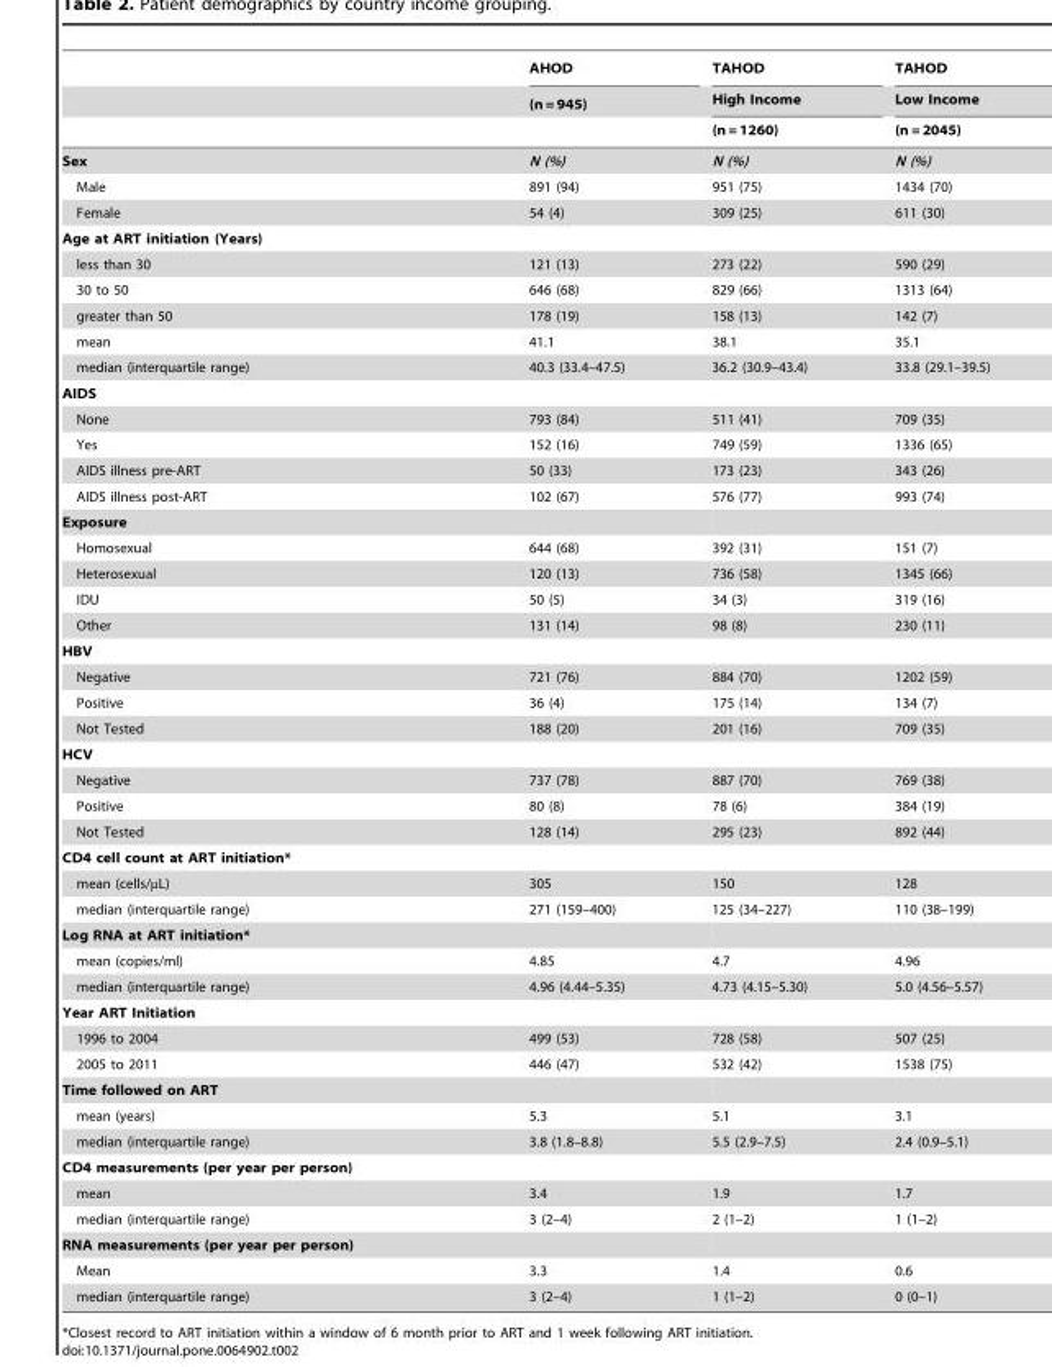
<table><thead><tr><td rowspan="3"></td><td rowspan="3">AHOD (n = 945)</td><td rowspan="3">TAHOD High Income (n = 1260)</td><td rowspan="3">TAHOD Low Income (n = 2045)</td></tr><tr></tr><tr></tr></thead><tbody><tr><td>Sex</td><td>N (%)</td><td>N (%)</td><td>N (%)</td></tr><tr><td>Male</td><td>891 (94)</td><td>951 (75)</td><td>1434 (70)</td></tr><tr><td>Female</td><td>54 (4)</td><td>309 (25)</td><td>611 (30)</td></tr><tr><td colspan="4">Age at ART initiation (Years)</td></tr><tr><td>less than 30</td><td>121 (13)</td><td>273 (22)</td><td>590 (29)</td></tr><tr><td>30 to 50</td><td>646 (68)</td><td>829 (66)</td><td>1313 (64)</td></tr><tr><td>greater than 50</td><td>178 (19)</td><td>158 (13)</td><td>142 (7)</td></tr><tr><td>mean</td><td>41.1</td><td>38.1</td><td>35.1</td></tr><tr><td>median (interquartile range)</td><td>40.3 (33.4–47.5)</td><td>36.2 (30.9–43.4)</td><td>33.8 (29.1–39.5)</td></tr><tr><td colspan="4">AIDS</td></tr><tr><td>None</td><td>793 (84)</td><td>511 (41)</td><td>709 (35)</td></tr><tr><td>Yes</td><td>152 (16)</td><td>749 (59)</td><td>1336 (65)</td></tr><tr><td>AIDS illness pre-ART</td><td>50 (33)</td><td>173 (23)</td><td>343 (26)</td></tr><tr><td>AIDS illness post-ART</td><td>102 (67)</td><td>576 (77)</td><td>993 (74)</td></tr><tr><td colspan="4">Exposure</td></tr><tr><td>Homosexual</td><td>644 (68)</td><td>392 (31)</td><td>151 (7)</td></tr><tr><td>Heterosexual</td><td>120 (13)</td><td>736 (58)</td><td>1345 (66)</td></tr><tr><td>IDU</td><td>50 (5)</td><td>34 (3)</td><td>319 (16)</td></tr><tr><td>Other</td><td>131 (14)</td><td>98 (8)</td><td>230 (11)</td></tr><tr><td colspan="4">HBV</td></tr><tr><td>Negative</td><td>721 (76)</td><td>884 (70)</td><td>1202 (59)</td></tr><tr><td>Positive</td><td>36 (4)</td><td>175 (14)</td><td>134 (7)</td></tr><tr><td>Not Tested</td><td>188 (20)</td><td>201 (16)</td><td>709 (35)</td></tr><tr><td colspan="4">HCV</td></tr><tr><td>Negative</td><td>737 (78)</td><td>887 (70)</td><td>769 (38)</td></tr><tr><td>Positive</td><td>80 (8)</td><td>78 (6)</td><td>384 (19)</td></tr><tr><td>Not Tested</td><td>128 (14)</td><td>295 (23)</td><td>892 (44)</td></tr><tr><td colspan="4">CD4 cell count at ART initiation*</td></tr><tr><td>mean (cells/µL)</td><td>305</td><td>150</td><td>128</td></tr><tr><td>median (interquartile range)</td><td>271 (159–400)</td><td>125 (34–227)</td><td>110 (38–199)</td></tr><tr><td colspan="4">Log RNA at ART initiation*</td></tr><tr><td>mean (copies/ml)</td><td>4.85</td><td>4.7</td><td>4.96</td></tr><tr><td>median (interquartile range)</td><td>4.96 (4.44–5.35)</td><td>4.73 (4.15–5.30)</td><td>5.0 (4.56–5.57)</td></tr><tr><td colspan="4">Year ART Initiation</td></tr><tr><td>1996 to 2004</td><td>499 (53)</td><td>728 (58)</td><td>507 (25)</td></tr><tr><td>2005 to 2011</td><td>446 (47)</td><td>532 (42)</td><td>1538 (75)</td></tr><tr><td colspan="4">Time followed on ART</td></tr><tr><td>mean (years)</td><td>5.3</td><td>5.1</td><td>3.1</td></tr><tr><td>median (interquartile range)</td><td>3.8 (1.8–8.8)</td><td>5.5 (2.9–7.5)</td><td>2.4 (0.9–5.1)</td></tr><tr><td colspan="4">CD4 measurements (per year per person)</td></tr><tr><td>mean</td><td>3.4</td><td>1.9</td><td>1.7</td></tr><tr><td>median (interquartile range)</td><td>3 (2–4)</td><td>2 (1–2)</td><td>1 (1–2)</td></tr><tr><td colspan="4">RNA measurements (per year per person)</td></tr><tr><td>Mean</td><td>3.3</td><td>1.4</td><td>0.6</td></tr><tr><td>median (interquartile range)</td><td>3 (2–4)</td><td>1 (1–2)</td><td>0 (0–1)</td></tr></tbody></table>